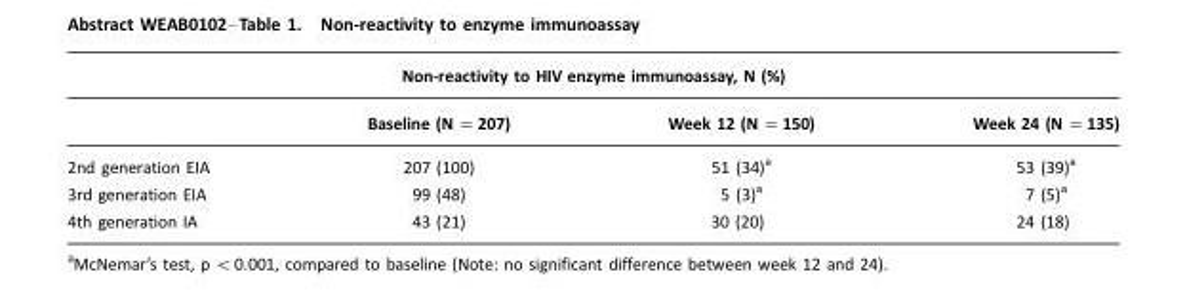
<table><thead><tr><td colspan="4">Non-reactivity to HIV enzyme immunoassay, N (%)</td></tr><tr><td></td><td>Baseline (N =207)</td><td>Week 12 (N =150)</td><td>Week 24 (N =135)</td></tr></thead><tbody><tr><td>2nd generation EIA</td><td>207 (100)</td><td>51 (34)a</td><td>53 (39)a</td></tr><tr><td>3rd generation EIA</td><td>99 (48)</td><td>5 (3)a</td><td>7 (5)a</td></tr><tr><td>4th generation IA</td><td>43 (21)</td><td>30 (20)</td><td>24 (18)</td></tr></tbody></table>